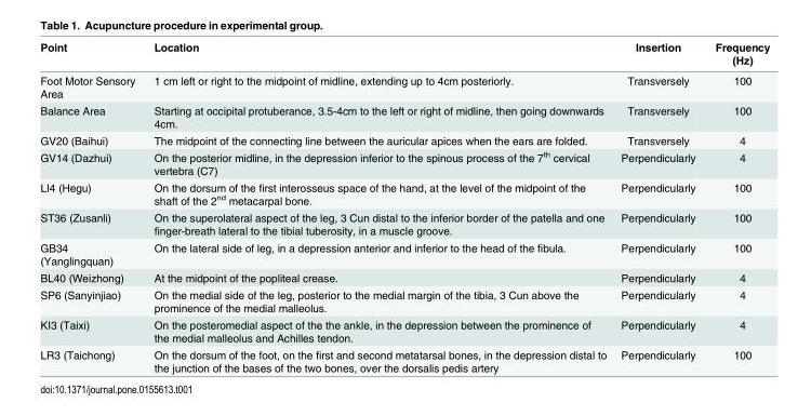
<table><thead><tr><td>Point</td><td>Location</td><td>Insertion</td><td>Frequency (Hz)</td></tr></thead><tbody><tr><td>Foot Motor Sensory Area</td><td>1 cm left or right to the midpoint of midline, extending up to 4cm posteriorly.</td><td>Transversely</td><td>100</td></tr><tr><td>Balance Area</td><td>Starting at occipital protuberance, 3.5-4cm to the left or right of midline, then going downwards 4cm.</td><td>Transversely</td><td>100</td></tr><tr><td>GV20 (Baihui)</td><td>The midpoint of the connecting line between the auricular apices when the ears are folded.</td><td>Transversely</td><td>4</td></tr><tr><td>GV14 (Dazhui)</td><td>On the posterior midline, in the depression inferior to the spinous process of the 7<sup>th</sup> cervical vertebra (C7)</td><td>Perpendicularly</td><td>4</td></tr><tr><td>LI4 (Hegu)</td><td>On the dorsum of the first interosseus space of the hand, at the level of the midpoint of the shaft of the 2<sup>nd</sup> metacarpal bone.</td><td>Perpendicularly</td><td>100</td></tr><tr><td>ST36 (Zusanli)</td><td>On the superolateral aspect of the leg, 3 Cun distal to the inferior border of the patella and one finger-breath lateral to the tibial tuberosity, in a muscle groove.</td><td>Perpendicularly</td><td>100</td></tr><tr><td>GB34 (Yanglingquan)</td><td>On the lateral side of leg, in a depression anterior and inferior to the head of the fibula.</td><td>Perpendicularly</td><td>100</td></tr><tr><td>BL40 (Weizhong)</td><td>At the midpoint of the popliteal crease.</td><td>Perpendicularly</td><td>4</td></tr><tr><td>SP6 (Sanyinjiao)</td><td>On the medial side of the leg, posterior to the medial margin of the tibia, 3 Cun above the prominence of the medial malleolus.</td><td>Perpendicularly</td><td>4</td></tr><tr><td>KI3 (Taixi)</td><td>On the posteromedial aspect of the the ankle, in the depression between the prominence of the medial malleolus and Achilles tendon.</td><td>Perpendicularly</td><td>4</td></tr><tr><td>LR3 (Taichong)</td><td>On the dorsum of the foot, on the first and second metatarsal bones, in the depression distal to the junction of the bases of the two bones, over the dorsalis pedis artery</td><td>Perpendicularly</td><td>100</td></tr></tbody></table>